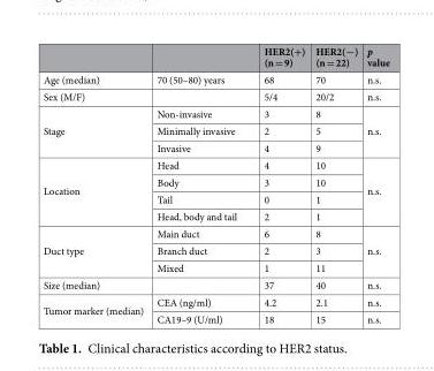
<table><thead><tr><td></td><td></td><td>HER2(+) (n = 9)</td><td>HER2(−) (n = 22)</td><td>p value</td></tr></thead><tbody><tr><td>Age (median)</td><td>70 (50–80) years</td><td>68</td><td>70</td><td>n.s.</td></tr><tr><td>Sex (M/F)</td><td></td><td>5/4</td><td>20/2</td><td>n.s.</td></tr><tr><td rowspan="3">Stage</td><td>Non-invasive</td><td>3</td><td>8</td><td rowspan="3">n.s.</td></tr><tr><td>Minimally invasive</td><td>2</td><td>5</td></tr><tr><td>Invasive</td><td>4</td><td>9</td></tr><tr><td rowspan="4">Location</td><td>Head</td><td>4</td><td>10</td><td rowspan="4">n.s.</td></tr><tr><td>Body</td><td>3</td><td>10</td></tr><tr><td>Tail</td><td>0</td><td>1</td></tr><tr><td>Head, body and tail</td><td>2</td><td>1</td></tr><tr><td rowspan="3">Duct type</td><td>Main duct</td><td>6</td><td>8</td><td rowspan="3">n.s.</td></tr><tr><td>Branch duct</td><td>2</td><td>3</td></tr><tr><td>Mixed</td><td>1</td><td>11</td></tr><tr><td>Size (median)</td><td></td><td>37</td><td>40</td><td>n.s.</td></tr><tr><td rowspan="2">Tumor marker (median)</td><td>CEA (ng/ml)</td><td>4.2</td><td>2.1</td><td>n.s.</td></tr><tr><td>CA19–9 (U/ml)</td><td>18</td><td>15</td><td>n.s.</td></tr></tbody></table>